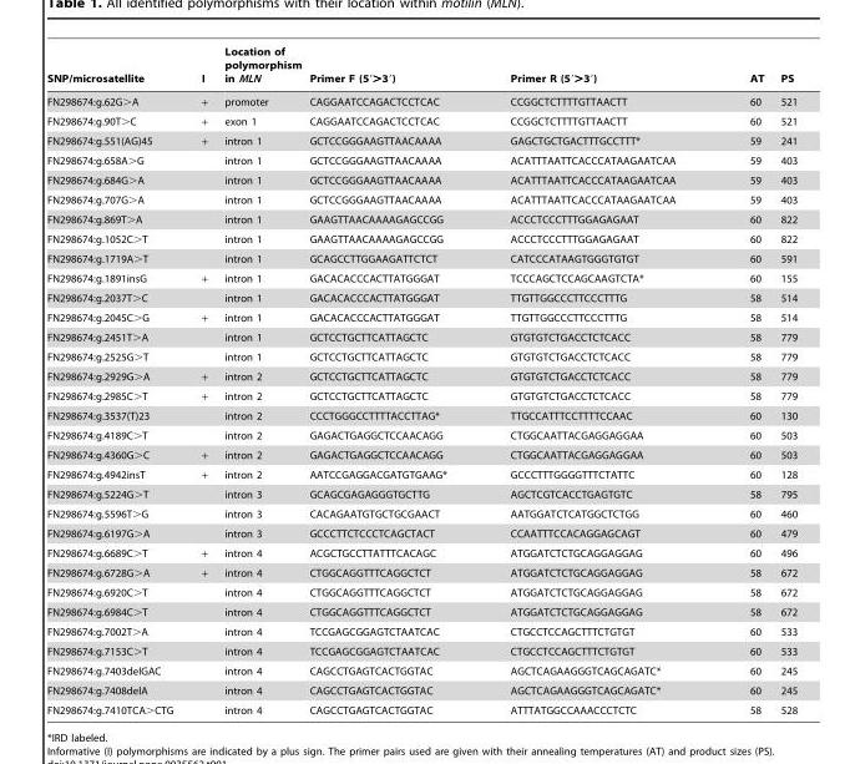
<table><thead><tr><td>SNP/microsatellite</td><td>I</td><td>Location of polymorphism in MLN</td><td>Primer F (59. .39)</td><td>Primer R (59. .39)</td><td>AT</td><td>PS</td></tr></thead><tbody><tr><td>FN298674:g.62G&gt;A</td><td>+</td><td>promoter</td><td>CAGGAATCCAGACTCCTCAC</td><td>CCGGCTCTTTTGTTAACTT</td><td>60</td><td>521</td></tr><tr><td>FN298674:g.90T&gt;C</td><td>+</td><td>exon 1</td><td>CAGGAATCCAGACTCCTCAC</td><td>CCGGCTCTTTTGTTAACTT</td><td>60</td><td>521</td></tr><tr><td>FN298674:g.551(AG)45</td><td>+</td><td>intron 1</td><td>GCTCCGGGAAGTTAACAAAA</td><td>GAGCTGCTGACTTTGCCTTT*</td><td>59</td><td>241</td></tr><tr><td>FN298674:g.658A&gt;G</td><td></td><td>intron 1</td><td>GCTCCGGGAAGTTAACAAAA</td><td>ACATTTAATTCACCCATAAGAATCAA</td><td>59</td><td>403</td></tr><tr><td>FN298674:g.684G&gt;A</td><td></td><td>intron 1</td><td>GCTCCGGGAAGTTAACAAAA</td><td>ACATTTAATTCACCCATAAGAATCAA</td><td>59</td><td>403</td></tr><tr><td>FN298674:g.707G&gt;A</td><td></td><td>intron 1</td><td>GCTCCGGGAAGTTAACAAAA</td><td>ACATTTAATTCACCCATAAGAATCAA</td><td>59</td><td>403</td></tr><tr><td>FN298674:g.869T&gt;A</td><td></td><td>intron 1</td><td>GAAGTTAACAAAAGAGCCGG</td><td>ACCCTCCCTTTGGAGAGAAT</td><td>60</td><td>822</td></tr><tr><td>FN298674:g.1052C&gt;T</td><td></td><td>intron 1</td><td>GAAGTTAACAAAAGAGCCGG</td><td>ACCCTCCCTTTGGAGAGAAT</td><td>60</td><td>822</td></tr><tr><td>FN298674:g.1719A&gt;T</td><td></td><td>intron 1</td><td>GCAGCCTTGGAAGATTCTCT</td><td>CATCCCATAAGTGGGTGTGT</td><td>60</td><td>591</td></tr><tr><td>FN298674:g.1891insG</td><td>+</td><td>intron 1</td><td>GACACACCCACTTATGGGAT</td><td>TCCCAGCTCCAGCAAGTCTA*</td><td>60</td><td>155</td></tr><tr><td>FN298674:g.2037T&gt;C</td><td></td><td>intron 1</td><td>GACACACCCACTTATGGGAT</td><td>TTGTTGGCCCTTCCCTTTG</td><td>58</td><td>514</td></tr><tr><td>FN298674:g.2045C&gt;G</td><td>+</td><td>intron 1</td><td>GACACACCCACTTATGGGAT</td><td>TTGTTGGCCCTTCCCTTTG</td><td>58</td><td>514</td></tr><tr><td>FN298674:g.2451T&gt;A</td><td></td><td>intron 1</td><td>GCTCCTGCTTCATTAGCTC</td><td>GTGTGTCTGACCTCTCACC</td><td>58</td><td>779</td></tr><tr><td>FN298674:g.2525G&gt;T</td><td></td><td>intron 1</td><td>GCTCCTGCTTCATTAGCTC</td><td>GTGTGTCTGACCTCTCACC</td><td>58</td><td>779</td></tr><tr><td>FN298674:g.2929G&gt;A</td><td>+</td><td>intron 2</td><td>GCTCCTGCTTCATTAGCTC</td><td>GTGTGTCTGACCTCTCACC</td><td>58</td><td>779</td></tr><tr><td>FN298674:g.2985C&gt;T</td><td>+</td><td>intron 2</td><td>GCTCCTGCTTCATTAGCTC</td><td>GTGTGTCTGACCTCTCACC</td><td>58</td><td>779</td></tr><tr><td>FN298674:g.3537(T)23</td><td></td><td>intron 2</td><td>CCCTGGGCCTTTTACCTTAG*</td><td>TTGCCATTTCCTTTTCCAAC</td><td>60</td><td>130</td></tr><tr><td>FN298674:g.4189C&gt;T</td><td></td><td>intron 2</td><td>GAGACTGAGGCTCCAACAGG</td><td>CTGGCAATTACGAGGAGGAA</td><td>60</td><td>503</td></tr><tr><td>FN298674:g.4360G&gt;C</td><td>+</td><td>intron 2</td><td>GAGACTGAGGCTCCAACAGG</td><td>CTGGCAATTACGAGGAGGAA</td><td>60</td><td>503</td></tr><tr><td>FN298674:g.4942insT</td><td>+</td><td>intron 2</td><td>AATCCGAGGACGATGTGAAG*</td><td>GCCCTTTGGGGTTTCTATTC</td><td>60</td><td>128</td></tr><tr><td>FN298674:g.5224G&gt;T</td><td></td><td>intron 3</td><td>GCAGCGAGAGGGTGCTTG</td><td>AGCTCGTCACCTGAGTGTC</td><td>58</td><td>795</td></tr><tr><td>FN298674:g.5596T&gt;G</td><td></td><td>intron 3</td><td>CACAGAATGTGCTGCGAACT</td><td>AATGGATCTCATGGCTCTGG</td><td>60</td><td>460</td></tr><tr><td>FN298674:g.6197G&gt;A</td><td></td><td>intron 3</td><td>GCCCTTCTCCCTCAGCTACT</td><td>CCAATTTCCACAGGAGCAGT</td><td>60</td><td>479</td></tr><tr><td>FN298674:g.6689C&gt;T</td><td>+</td><td>intron 4</td><td>ACGCTGCCTTATTTCACAGC</td><td>ATGGATCTCTGCAGGAGGAG</td><td>60</td><td>496</td></tr><tr><td>FN298674:g.6728G&gt;A</td><td>+</td><td>intron 4</td><td>CTGGCAGGTTTCAGGCTCT</td><td>ATGGATCTCTGCAGGAGGAG</td><td>58</td><td>672</td></tr><tr><td>FN298674:g.6920C&gt;T</td><td></td><td>intron 4</td><td>CTGGCAGGTTTCAGGCTCT</td><td>ATGGATCTCTGCAGGAGGAG</td><td>58</td><td>672</td></tr><tr><td>FN298674:g.6984C&gt;T</td><td></td><td>intron 4</td><td>CTGGCAGGTTTCAGGCTCT</td><td>ATGGATCTCTGCAGGAGGAG</td><td>58</td><td>672</td></tr><tr><td>FN298674:g.7002T&gt;A</td><td></td><td>intron 4</td><td>TCCGAGCGGAGTCTAATCAC</td><td>CTGCCTCCAGCTTTCTGTGT</td><td>60</td><td>533</td></tr><tr><td>FN298674:g.7153C&gt;T</td><td></td><td>intron 4</td><td>TCCGAGCGGAGTCTAATCAC</td><td>CTGCCTCCAGCTTTCTGTGT</td><td>60</td><td>533</td></tr><tr><td>FN298674:g.7403delGAC</td><td></td><td>intron 4</td><td>CAGCCTGAGTCACTGGTAC</td><td>AGCTCAGAAGGGTCAGCAGATC*</td><td>60</td><td>245</td></tr><tr><td>FN298674:g.7408delA</td><td></td><td>intron 4</td><td>CAGCCTGAGTCACTGGTAC</td><td>AGCTCAGAAGGGTCAGCAGATC*</td><td>60</td><td>245</td></tr><tr><td>FN298674:g.7410TCA&gt;CTG</td><td></td><td>intron 4</td><td>CAGCCTGAGTCACTGGTAC</td><td>ATTTATGGCCAAACCCTCTC</td><td>58</td><td>528</td></tr></tbody></table>